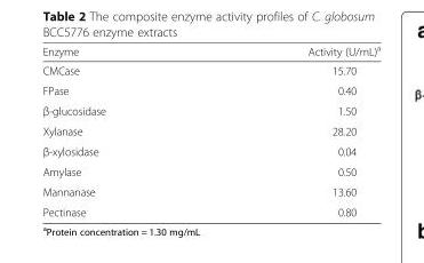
<table><thead><tr><td>Enzyme</td><td>Activity (U/mL)<sup>a</sup></td></tr></thead><tbody><tr><td>CMCase</td><td>15.70</td></tr><tr><td>FPase</td><td>0.40</td></tr><tr><td>β-glucosidase</td><td>1.50</td></tr><tr><td>Xylanase</td><td>28.20</td></tr><tr><td>β-xylosidase</td><td>0.04</td></tr><tr><td>Amylase</td><td>0.50</td></tr><tr><td>Mannanase</td><td>13.60</td></tr><tr><td>Pectinase</td><td>0.80</td></tr></tbody></table>